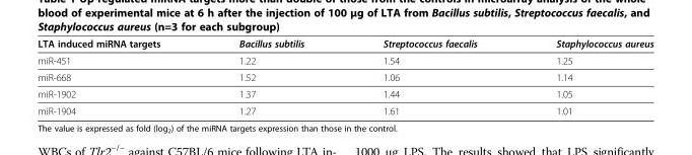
<table><thead><tr><td>LTA induced miRNA targets</td><td>Bacillus subtilis</td><td>Streptococcus faecalis</td><td>Staphylococcus aureus</td></tr></thead><tbody><tr><td>miR-451</td><td>1.22</td><td>1.54</td><td>1.25</td></tr><tr><td>miR-668</td><td>1.52</td><td>1.06</td><td>1.14</td></tr><tr><td>miR-1902</td><td>1.37</td><td>1.44</td><td>1.05</td></tr><tr><td>miR-1904</td><td>1.27</td><td>1.61</td><td>1.01</td></tr></tbody></table>